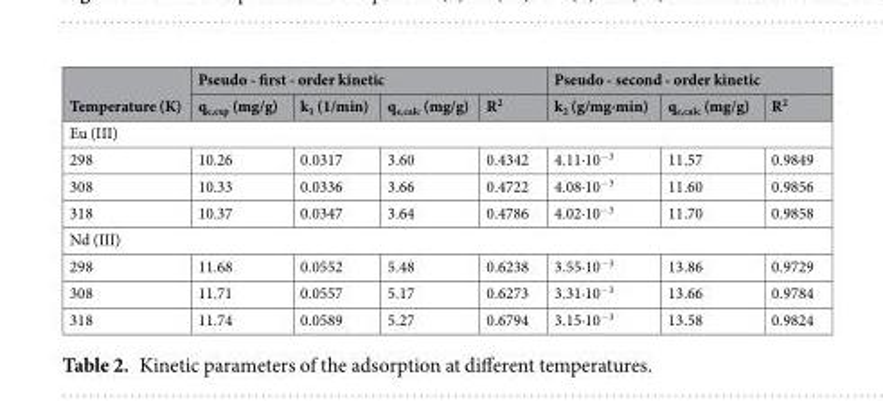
<table><thead><tr><td rowspan="2">Temperature (K)</td><td colspan="4">Pseudo - first - order kinetic</td><td colspan="3">Pseudo - second - order kinetic</td></tr><tr><td>q<sub>e,exp</sub> (mg/g)</td><td>k<sub>1</sub> (1/min)</td><td>q<sub>e,calc</sub> (mg/g)</td><td>R<sup>2</sup></td><td>k<sub>2</sub> (g/mg∙min)</td><td>q<sub>e,calc</sub> (mg/g)</td><td>R<sup>2</sup></td></tr></thead><tbody><tr><td colspan="8">Eu (III)</td></tr><tr><td>298</td><td>10.26</td><td>0.0317</td><td>3.60</td><td>0.4342</td><td>4.11∙10<sup>−3</sup></td><td>11.57</td><td>0.9849</td></tr><tr><td>308</td><td>10.33</td><td>0.0336</td><td>3.66</td><td>0.4722</td><td>4.08∙10<sup>−3</sup></td><td>11.60</td><td>0.9856</td></tr><tr><td>318</td><td>10.37</td><td>0.0347</td><td>3.64</td><td>0.4786</td><td>4.02∙10<sup>−3</sup></td><td>11.70</td><td>0.9858</td></tr><tr><td colspan="8">Nd (III)</td></tr><tr><td>298</td><td>11.68</td><td>0.0552</td><td>5.48</td><td>0.6238</td><td>3.55∙10<sup>−3</sup></td><td>13.86</td><td>0.9729</td></tr><tr><td>308</td><td>11.71</td><td>0.0557</td><td>5.17</td><td>0.6273</td><td>3.31∙10<sup>−3</sup></td><td>13.66</td><td>0.9784</td></tr><tr><td>318</td><td>11.74</td><td>0.0589</td><td>5.27</td><td>0.6794</td><td>3.15∙10<sup>−3</sup></td><td>13.58</td><td>0.9824</td></tr></tbody></table>